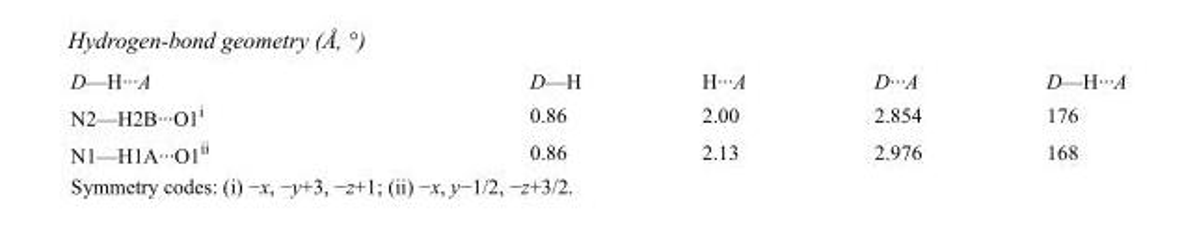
<table><tbody><tr><td>D—H···A</td><td>D—H</td><td>H···A</td><td>D···A</td><td>D—H···A</td></tr><tr><td>N2—H2B···O1<sup>i</sup></td><td>0.86</td><td>2.00</td><td>2.854</td><td>176</td></tr><tr><td>N1—H1A···O1<sup>ii</sup></td><td>0.86</td><td>2.13</td><td>2.976</td><td>168</td></tr></tbody></table>